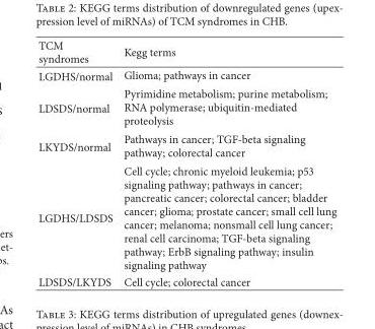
<table><thead><tr><td>TCM syndromes</td><td>Kegg terms</td></tr></thead><tbody><tr><td>LGDHS/normal</td><td>Glioma; pathways in cancer</td></tr><tr><td>LDSDS/normal</td><td>Pyrimidine metabolism; purine metabolism; RNA polymerase; ubiquitin-mediated proteolysis</td></tr><tr><td>LKYDS/normal</td><td>Pathways in cancer; TGF-beta signaling pathway; colorectal cancer</td></tr><tr><td>LGDHS/LDSDS</td><td>Cell cycle; chronic myeloid leukemia; p53 signaling pathway; pathways in cancer; pancreatic cancer; colorectal cancer; bladder cancer; glioma; prostate cancer; small cell lung cancer; melanoma; nonsmall cell lung cancer; renal cell carcinoma; TGF-beta signaling pathway; ErbB signaling pathway; insulin signaling pathway</td></tr><tr><td>LDSDS/LKYDS</td><td>Cell cycle; colorectal cancer</td></tr></tbody></table>